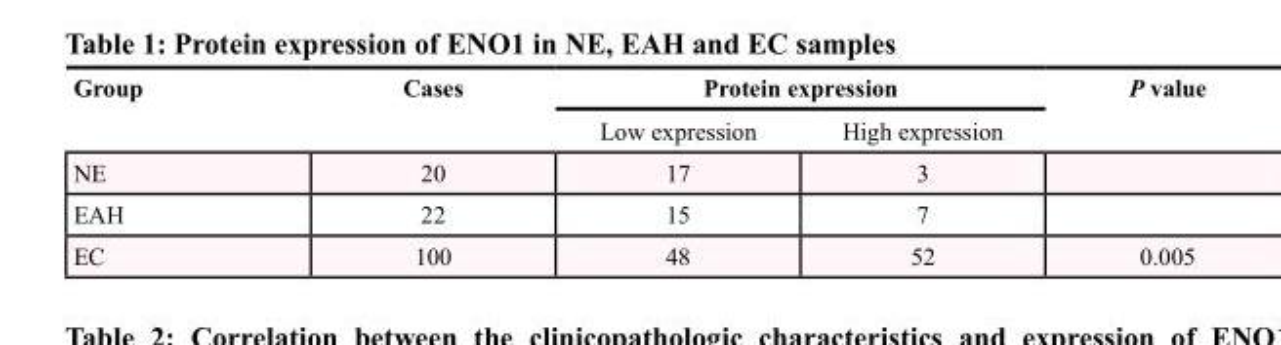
<table><thead><tr><td rowspan="2">Group</td><td rowspan="2">Cases</td><td colspan="2">Protein expression</td><td rowspan="2">P value</td></tr><tr><td>Low expression</td><td>High expression</td></tr></thead><tbody><tr><td>NE</td><td>20</td><td>17</td><td>3</td><td></td></tr><tr><td>EAH</td><td>22</td><td>15</td><td>7</td><td></td></tr><tr><td>EC</td><td>100</td><td>48</td><td>52</td><td>0.005</td></tr></tbody></table>